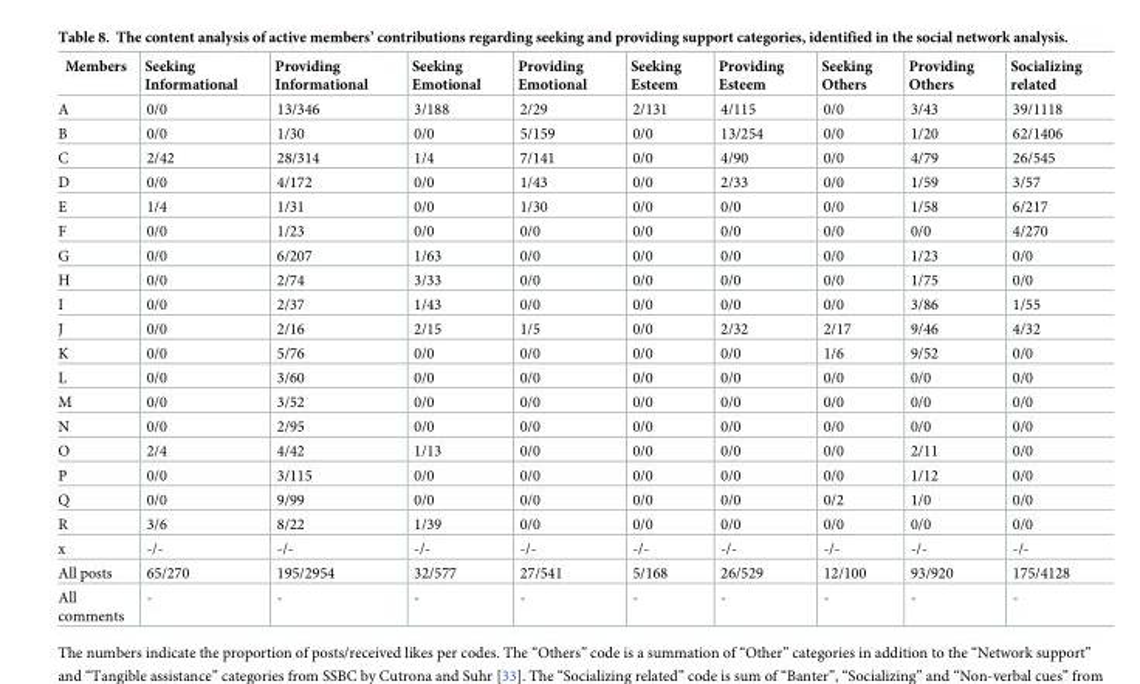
<table><thead><tr><td>Members</td><td>Seeking Informational</td><td>Providing Informational</td><td>Seeking Emotional</td><td>Providing Emotional</td><td>Seeking Esteem</td><td>Providing Esteem</td><td>Seeking Others</td><td>Providing Others</td><td>Socializing related</td></tr></thead><tbody><tr><td>A</td><td>0/0</td><td>13/346</td><td>3/188</td><td>2/29</td><td>2/131</td><td>4/115</td><td>0/0</td><td>3/43</td><td>39/1118</td></tr><tr><td>B</td><td>0/0</td><td>1/30</td><td>0/0</td><td>5/159</td><td>0/0</td><td>13/254</td><td>0/0</td><td>1/20</td><td>62/1406</td></tr><tr><td>C</td><td>2/42</td><td>28/314</td><td>1/4</td><td>7/141</td><td>0/0</td><td>4/90</td><td>0/0</td><td>4/79</td><td>26/545</td></tr><tr><td>D</td><td>0/0</td><td>4/172</td><td>0/0</td><td>1/43</td><td>0/0</td><td>2/33</td><td>0/0</td><td>1/59</td><td>3/57</td></tr><tr><td>E</td><td>1/4</td><td>1/31</td><td>0/0</td><td>1/30</td><td>0/0</td><td>0/0</td><td>0/0</td><td>1/58</td><td>6/217</td></tr><tr><td>F</td><td>0/0</td><td>1/23</td><td>0/0</td><td>0/0</td><td>0/0</td><td>0/0</td><td>0/0</td><td>0/0</td><td>4/270</td></tr><tr><td>G</td><td>0/0</td><td>6/207</td><td>1/63</td><td>0/0</td><td>0/0</td><td>0/0</td><td>0/0</td><td>1/23</td><td>0/0</td></tr><tr><td>H</td><td>0/0</td><td>2/74</td><td>3/33</td><td>0/0</td><td>0/0</td><td>0/0</td><td>0/0</td><td>1/75</td><td>0/0</td></tr><tr><td>I</td><td>0/0</td><td>2/37</td><td>1/43</td><td>0/0</td><td>0/0</td><td>0/0</td><td>0/0</td><td>3/86</td><td>1/55</td></tr><tr><td>J</td><td>0/0</td><td>2/16</td><td>2/15</td><td>1/5</td><td>0/0</td><td>2/32</td><td>2/17</td><td>9/46</td><td>4/32</td></tr><tr><td>K</td><td>0/0</td><td>5/76</td><td>0/0</td><td>0/0</td><td>0/0</td><td>0/0</td><td>1/6</td><td>9/52</td><td>0/0</td></tr><tr><td>L</td><td>0/0</td><td>3/60</td><td>0/0</td><td>0/0</td><td>0/0</td><td>0/0</td><td>0/0</td><td>0/0</td><td>0/0</td></tr><tr><td>M</td><td>0/0</td><td>3/52</td><td>0/0</td><td>0/0</td><td>0/0</td><td>0/0</td><td>0/0</td><td>0/0</td><td>0/0</td></tr><tr><td>N</td><td>0/0</td><td>2/95</td><td>0/0</td><td>0/0</td><td>0/0</td><td>0/0</td><td>0/0</td><td>0/0</td><td>0/0</td></tr><tr><td>O</td><td>2/4</td><td>4/42</td><td>1/13</td><td>0/0</td><td>0/0</td><td>0/0</td><td>0/0</td><td>2/11</td><td>0/0</td></tr><tr><td>P</td><td>0/0</td><td>3/115</td><td>0/0</td><td>0/0</td><td>0/0</td><td>0/0</td><td>0/0</td><td>1/12</td><td>0/0</td></tr><tr><td>Q</td><td>0/0</td><td>9/99</td><td>0/0</td><td>0/0</td><td>0/0</td><td>0/0</td><td>0/2</td><td>1/0</td><td>0/0</td></tr><tr><td>R</td><td>3/6</td><td>8/22</td><td>1/39</td><td>0/0</td><td>0/0</td><td>0/0</td><td>0/0</td><td>0/0</td><td>0/0</td></tr><tr><td>x</td><td>-/-</td><td>-/-</td><td>-/-</td><td>-/-</td><td>-/-</td><td>-/-</td><td>-/-</td><td>-/-</td><td>-/-</td></tr><tr><td>All posts</td><td>65/270</td><td>195/2954</td><td>32/577</td><td>27/541</td><td>5/168</td><td>26/529</td><td>12/100</td><td>93/920</td><td>175/4128</td></tr><tr><td>All comments</td><td>-</td><td>-</td><td>-</td><td>-</td><td>-</td><td>-</td><td>-</td><td>-</td><td>-</td></tr></tbody></table>